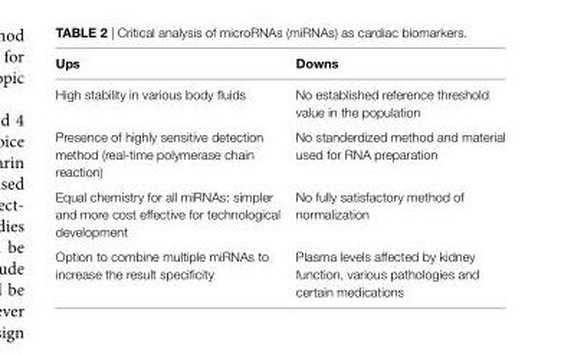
<table><thead><tr><td>Ups</td><td>Downs</td></tr></thead><tbody><tr><td>High stability in various body fluids</td><td>No established reference threshold value in the population</td></tr><tr><td>Presence of highly sensitive detection method (real-time polymerase chain reaction)</td><td>No standerdized method and material used for RNA preparation</td></tr><tr><td>Equal chemistry for all miRNAs: simpler and more cost effective for technological development</td><td>No fully satisfactory method of normalization</td></tr><tr><td>Option to combine multiple miRNAs to increase the result specificity</td><td>Plasma levels affected by kidney function, various pathologies and certain medications</td></tr></tbody></table>